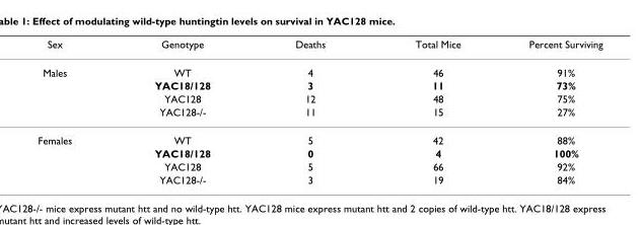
<table><thead><tr><td>Sex</td><td>Genotype</td><td>Deaths</td><td>Total Mice</td><td>Percent Surviving</td></tr></thead><tbody><tr><td rowspan="4">Males</td><td>WT</td><td>4</td><td>46</td><td>91%</td></tr><tr><td>YAC18/128</td><td>3</td><td>11</td><td>73%</td></tr><tr><td>YAC128</td><td>12</td><td>48</td><td>75%</td></tr><tr><td>YAC128-/-</td><td>11</td><td>15</td><td>27%</td></tr><tr><td rowspan="4">Females</td><td>WT</td><td>5</td><td>42</td><td>88%</td></tr><tr><td>YAC18/128</td><td>0</td><td>4</td><td>100%</td></tr><tr><td>YAC128</td><td>5</td><td>66</td><td>92%</td></tr><tr><td>YAC128-/-</td><td>3</td><td>19</td><td>84%</td></tr></tbody></table>